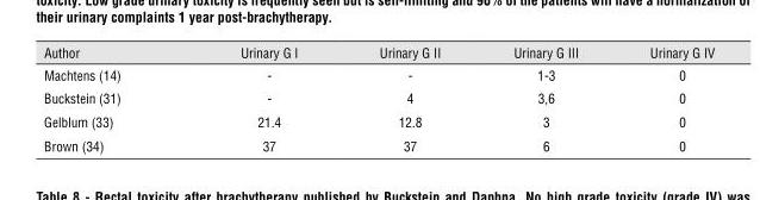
<table><thead><tr><td>Author</td><td>Urinary G I</td><td>Urinary G II</td><td>Urinary G III</td><td>Urinary G IV</td></tr></thead><tbody><tr><td>Machtens (14)</td><td>-</td><td>-</td><td>1-3</td><td>0</td></tr><tr><td>Buckstein (31)</td><td>-</td><td>4</td><td>3,6</td><td>0</td></tr><tr><td>Gelblum (33)</td><td>21.4</td><td>12.8</td><td>3</td><td>0</td></tr><tr><td>Brown (34)</td><td>37</td><td>37</td><td>6</td><td>0</td></tr></tbody></table>